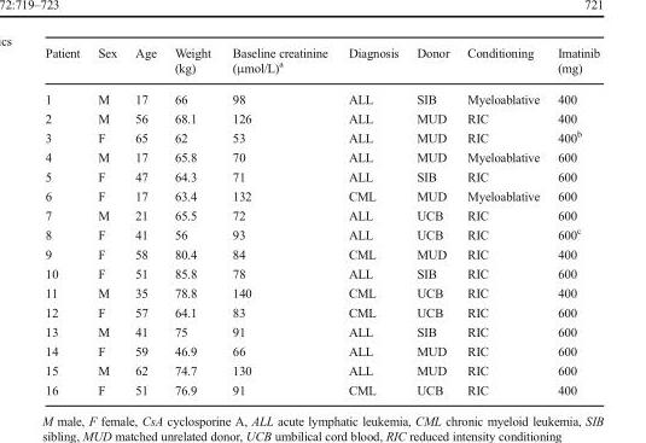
<table><thead><tr><td>Patient</td><td>Sex</td><td>Age</td><td>Weight (kg)</td><td>Baseline creatinine (μmol/L)<sup>a</sup></td><td>Diagnosis</td><td>Donor</td><td>Conditioning</td><td>Imatinib (mg)</td></tr></thead><tbody><tr><td>1</td><td>M</td><td>17</td><td>66</td><td>98</td><td>ALL</td><td>SIB</td><td>Myeloablative</td><td>400</td></tr><tr><td>2</td><td>M</td><td>56</td><td>68.1</td><td>126</td><td>ALL</td><td>MUD</td><td>RIC</td><td>400</td></tr><tr><td>3</td><td>F</td><td>65</td><td>62</td><td>53</td><td>ALL</td><td>MUD</td><td>RIC</td><td>400<sup>b</sup></td></tr><tr><td>4</td><td>M</td><td>17</td><td>65.8</td><td>70</td><td>ALL</td><td>MUD</td><td>Myeloablative</td><td>600</td></tr><tr><td>5</td><td>F</td><td>47</td><td>64.3</td><td>71</td><td>ALL</td><td>SIB</td><td>RIC</td><td>600</td></tr><tr><td>6</td><td>F</td><td>17</td><td>63.4</td><td>132</td><td>CML</td><td>MUD</td><td>Myeloablative</td><td>600</td></tr><tr><td>7</td><td>M</td><td>21</td><td>65.5</td><td>72</td><td>ALL</td><td>UCB</td><td>RIC</td><td>600</td></tr><tr><td>8</td><td>F</td><td>41</td><td>56</td><td>93</td><td>ALL</td><td>UCB</td><td>RIC</td><td>600<sup>c</sup></td></tr><tr><td>9</td><td>F</td><td>58</td><td>80.4</td><td>84</td><td>CML</td><td>MUD</td><td>RIC</td><td>400</td></tr><tr><td>10</td><td>F</td><td>51</td><td>85.8</td><td>78</td><td>ALL</td><td>SIB</td><td>RIC</td><td>600</td></tr><tr><td>11</td><td>M</td><td>35</td><td>78.8</td><td>140</td><td>CML</td><td>UCB</td><td>RIC</td><td>400</td></tr><tr><td>12</td><td>F</td><td>57</td><td>64.1</td><td>83</td><td>CML</td><td>UCB</td><td>RIC</td><td>600</td></tr><tr><td>13</td><td>M</td><td>41</td><td>75</td><td>91</td><td>ALL</td><td>SIB</td><td>RIC</td><td>600</td></tr><tr><td>14</td><td>F</td><td>59</td><td>46.9</td><td>66</td><td>ALL</td><td>MUD</td><td>RIC</td><td>600</td></tr><tr><td>15</td><td>M</td><td>62</td><td>74.7</td><td>130</td><td>ALL</td><td>MUD</td><td>RIC</td><td>600</td></tr><tr><td>16</td><td>F</td><td>51</td><td>76.9</td><td>91</td><td>CML</td><td>UCB</td><td>RIC</td><td>400</td></tr></tbody></table>